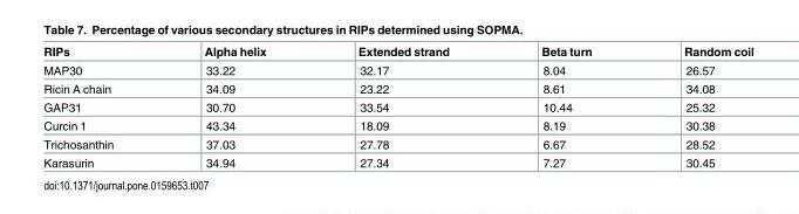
<table><thead><tr><td>RIPs</td><td>Alpha helix</td><td>Extended strand</td><td>Beta turn</td><td>Random coil</td></tr></thead><tbody><tr><td>MAP30</td><td>33.22</td><td>32.17</td><td>8.04</td><td>26.57</td></tr><tr><td>Ricin A chain</td><td>34.09</td><td>23.22</td><td>8.61</td><td>34.08</td></tr><tr><td>GAP31</td><td>30.70</td><td>33.54</td><td>10.44</td><td>25.32</td></tr><tr><td>Curcin 1</td><td>43.34</td><td>18.09</td><td>8.19</td><td>30.38</td></tr><tr><td>Trichosanthin</td><td>37.03</td><td>27.78</td><td>6.67</td><td>28.52</td></tr><tr><td>Karasurin</td><td>34.94</td><td>27.34</td><td>7.27</td><td>30.45</td></tr></tbody></table>